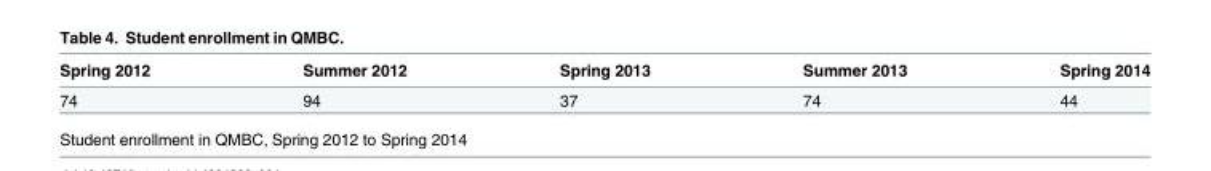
<table><thead><tr><td>Spring 2012</td><td>Summer 2012</td><td>Spring 2013</td><td>Summer 2013</td><td>Spring 2014</td></tr></thead><tbody><tr><td>74</td><td>94</td><td>37</td><td>74</td><td>44</td></tr></tbody></table>